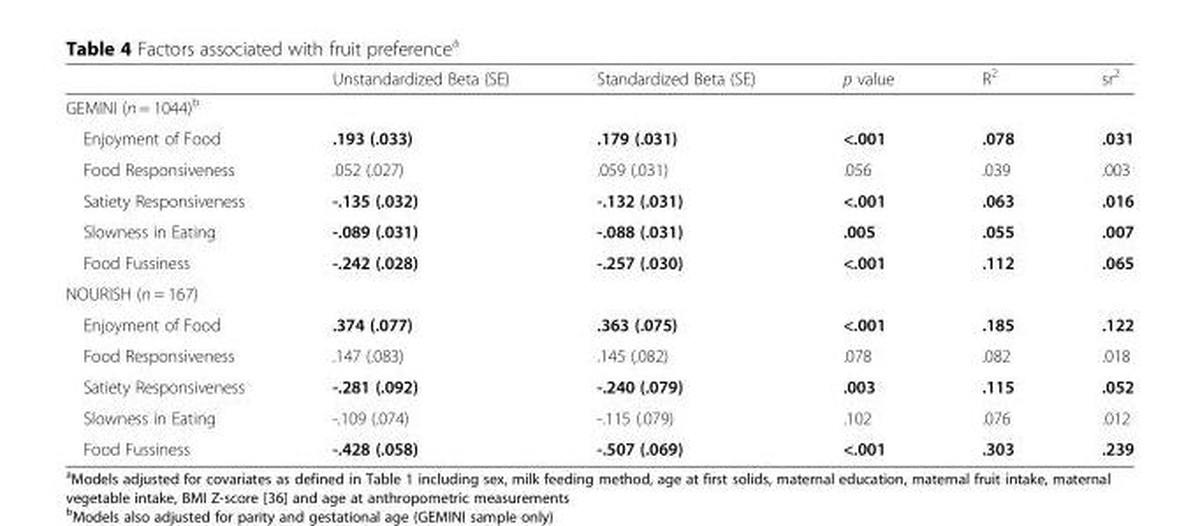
<table><thead><tr><td></td><td>Unstandardized Beta (SE)</td><td>Standardized Beta (SE)</td><td>p value</td><td>R<sup>2</sup></td><td>sr<sup>2</sup></td></tr></thead><tbody><tr><td colspan="6">GEMINI (n = 1044)<sup>b</sup></td></tr><tr><td>Enjoyment of Food</td><td>.193 (.033)</td><td>.179 (.031)</td><td>&lt;.001</td><td>.078</td><td>.031</td></tr><tr><td>Food Responsiveness</td><td>.052 (.027)</td><td>.059 (.031)</td><td>.056</td><td>.039</td><td>.003</td></tr><tr><td>Satiety Responsiveness</td><td>-.135 (.032)</td><td>-.132 (.031)</td><td>&lt;.001</td><td>.063</td><td>.016</td></tr><tr><td>Slowness in Eating</td><td>-.089 (.031)</td><td>-.088 (.031)</td><td>.005</td><td>.055</td><td>.007</td></tr><tr><td>Food Fussiness</td><td>-.242 (.028)</td><td>-.257 (.030)</td><td>&lt;.001</td><td>.112</td><td>.065</td></tr><tr><td colspan="6">NOURISH (n = 167)</td></tr><tr><td>Enjoyment of Food</td><td>.374 (.077)</td><td>.363 (.075)</td><td>&lt;.001</td><td>.185</td><td>.122</td></tr><tr><td>Food Responsiveness</td><td>.147 (.083)</td><td>.145 (.082)</td><td>.078</td><td>.082</td><td>.018</td></tr><tr><td>Satiety Responsiveness</td><td>-.281 (.092)</td><td>-.240 (.079)</td><td>.003</td><td>.115</td><td>.052</td></tr><tr><td>Slowness in Eating</td><td>-.109 (.074)</td><td>-.115 (.079)</td><td>.102</td><td>.076</td><td>.012</td></tr><tr><td>Food Fussiness</td><td>-.428 (.058)</td><td>-.507 (.069)</td><td>&lt;.001</td><td>.303</td><td>.239</td></tr></tbody></table>